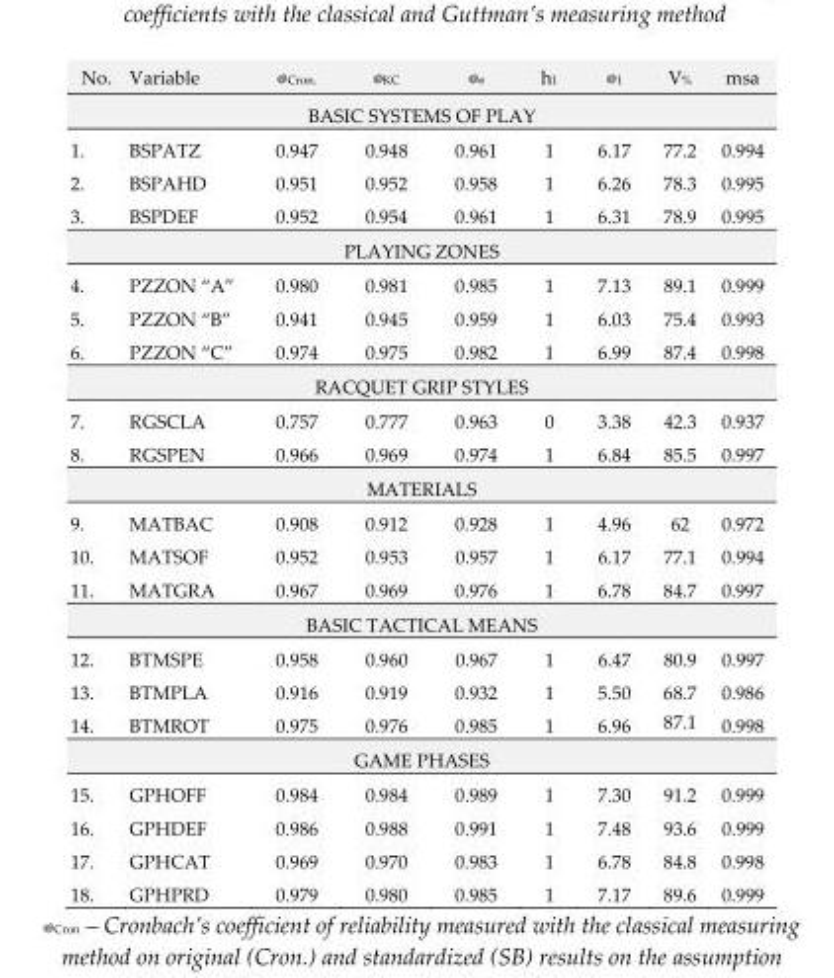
<table><thead><tr><td>No.</td><td>Variable</td><td>�Cron.</td><td>�KC</td><td>��</td><td>h1</td><td>�1</td><td>V%</td><td>msa</td></tr></thead><tbody><tr><td colspan="9">BASIC SYSTEMS OF PLAY</td></tr><tr><td>1.</td><td>BSPATZ</td><td>0.947</td><td>0.948</td><td>0.961</td><td>1</td><td>6.17</td><td>77.2</td><td>0.994</td></tr><tr><td>2.</td><td>BSPAHD</td><td>0.951</td><td>0.952</td><td>0.958</td><td>1</td><td>6.26</td><td>78.3</td><td>0.995</td></tr><tr><td>3.</td><td>BSPDEF</td><td>0.952</td><td>0.954</td><td>0.961</td><td>1</td><td>6.31</td><td>78.9</td><td>0.995</td></tr><tr><td colspan="9">PLAYING ZONES</td></tr><tr><td>4.</td><td>PZZON “A”</td><td>0.980</td><td>0.981</td><td>0.985</td><td>1</td><td>7.13</td><td>89.1</td><td>0.999</td></tr><tr><td>5.</td><td>PZZON “B”</td><td>0.941</td><td>0.945</td><td>0.959</td><td>1</td><td>6.03</td><td>75.4</td><td>0.993</td></tr><tr><td>6.</td><td>PZZON “C”</td><td>0.974</td><td>0.975</td><td>0.982</td><td>1</td><td>6.99</td><td>87.4</td><td>0.998</td></tr><tr><td colspan="9">RACQUET GRIP STYLES</td></tr><tr><td>7.</td><td>RGSCLA</td><td>0.757</td><td>0.777</td><td>0.963</td><td>0</td><td>3.38</td><td>42.3</td><td>0.937</td></tr><tr><td>8.</td><td>RGSPEN</td><td>0.966</td><td>0.969</td><td>0.974</td><td>1</td><td>6.84</td><td>85.5</td><td>0.997</td></tr><tr><td colspan="9">MATERIALS</td></tr><tr><td>9.</td><td>MATBAC</td><td>0.908</td><td>0.912</td><td>0.928</td><td>1</td><td>4.96</td><td>62</td><td>0.972</td></tr><tr><td>10.</td><td>MATSOF</td><td>0.952</td><td>0.953</td><td>0.957</td><td>1</td><td>6.17</td><td>77.1</td><td>0.994</td></tr><tr><td>11.</td><td>MATGRA</td><td>0.967</td><td>0.969</td><td>0.976</td><td>1</td><td>6.78</td><td>84.7</td><td>0.997</td></tr><tr><td colspan="9">BASIC TACTICAL MEANS</td></tr><tr><td>12.</td><td>BTMSPE</td><td>0.958</td><td>0.960</td><td>0.967</td><td>1</td><td>6.47</td><td>80.9</td><td>0.997</td></tr><tr><td>13.</td><td>BTMPLA</td><td>0.916</td><td>0.919</td><td>0.932</td><td>1</td><td>5.50</td><td>68.7</td><td>0.986</td></tr><tr><td>14.</td><td>BTMROT</td><td>0.975</td><td>0.976</td><td>0.985</td><td>1</td><td>6.96</td><td>87.1</td><td>0.998</td></tr><tr><td colspan="9">GAME PHASES</td></tr><tr><td>15.</td><td>GPHOFF</td><td>0.984</td><td>0.984</td><td>0.989</td><td>1</td><td>7.30</td><td>91.2</td><td>0.999</td></tr><tr><td>16.</td><td>GPHDEF</td><td>0.986</td><td>0.988</td><td>0.991</td><td>1</td><td>7.48</td><td>93.6</td><td>0.999</td></tr><tr><td>17.</td><td>GPHCAT</td><td>0.969</td><td>0.970</td><td>0.983</td><td>1</td><td>6.78</td><td>84.8</td><td>0.998</td></tr><tr><td>18.</td><td>GPHPRD</td><td>0.979</td><td>0.980</td><td>0.985</td><td>1</td><td>7.17</td><td>89.6</td><td>0.999</td></tr></tbody></table>